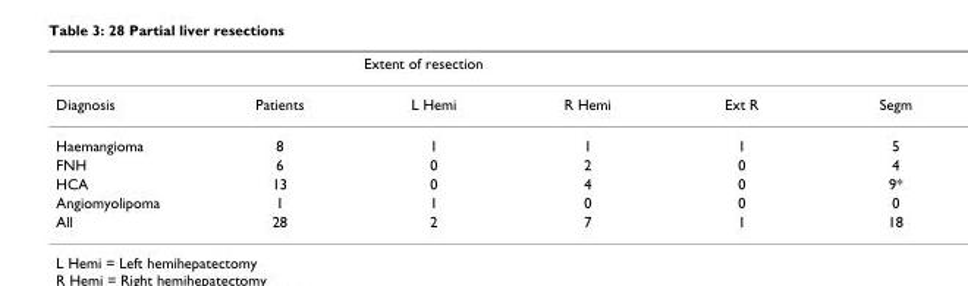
<table><thead><tr><td rowspan="2">Diagnosis</td><td rowspan="2">Patients</td><td colspan="4">Extent of resection</td></tr><tr><td>L Hemi</td><td>R Hemi</td><td>Ext R</td><td>Segm</td></tr></thead><tbody><tr><td>Haemangioma</td><td>8</td><td>1</td><td>1</td><td>1</td><td>5</td></tr><tr><td>FNH</td><td>6</td><td>0</td><td>2</td><td>0</td><td>4</td></tr><tr><td>HCA</td><td>13</td><td>0</td><td>4</td><td>0</td><td>9*</td></tr><tr><td>Angiomyolipoma</td><td>1</td><td>1</td><td>0</td><td>0</td><td>0</td></tr><tr><td>All</td><td>28</td><td>2</td><td>7</td><td>1</td><td>18</td></tr></tbody></table>